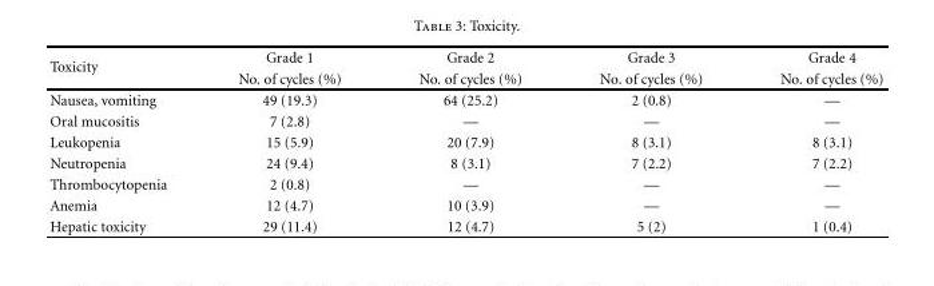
<table><thead><tr><td rowspan="2">Toxicity</td><td rowspan="2">Grade 1 No. of cycles (%)</td><td rowspan="2">Grade 2 No. of cycles (%)</td><td rowspan="2">Grade 3 No. of cycles (%)</td><td rowspan="2">Grade 4 No. of cycles (%)</td></tr><tr></tr></thead><tbody><tr><td>Nausea, vomiting</td><td>49 (19.3)</td><td>64 (25.2)</td><td>2 (0.8)</td><td>—</td></tr><tr><td>Oral mucositis</td><td>7 (2.8)</td><td>—</td><td>—</td><td>—</td></tr><tr><td>Leukopenia</td><td>15 (5.9)</td><td>20 (7.9)</td><td>8 (3.1)</td><td>8 (3.1)</td></tr><tr><td>Neutropenia</td><td>24 (9.4)</td><td>8 (3.1)</td><td>7 (2.2)</td><td>7 (2.2)</td></tr><tr><td>Thrombocytopenia</td><td>2 (0.8)</td><td>—</td><td>—</td><td>—</td></tr><tr><td>Anemia</td><td>12 (4.7)</td><td>10 (3.9)</td><td>—</td><td>—</td></tr><tr><td>Hepatic toxicity</td><td>29 (11.4)</td><td>12 (4.7)</td><td>5 (2)</td><td>1 (0.4)</td></tr></tbody></table>